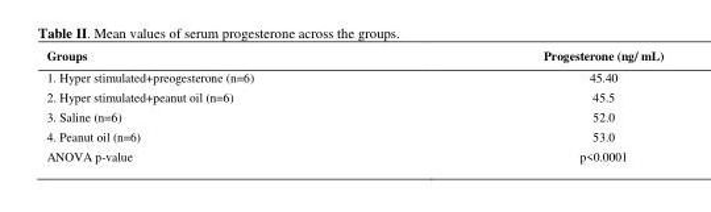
<table><thead><tr><td>Groups</td><td>Progesterone (ng/ mL)</td></tr></thead><tbody><tr><td>1. Hyper stimulated+preogesterone (n=6)</td><td>45.40</td></tr><tr><td>2. Hyper stimulated+peanut oil (n=6)</td><td>45.5</td></tr><tr><td>3. Saline (n=6)</td><td>52.0</td></tr><tr><td>4. Peanut oil (n=6)</td><td>53.0</td></tr><tr><td>ANOVA p-value</td><td>p&lt;0.0001</td></tr></tbody></table>